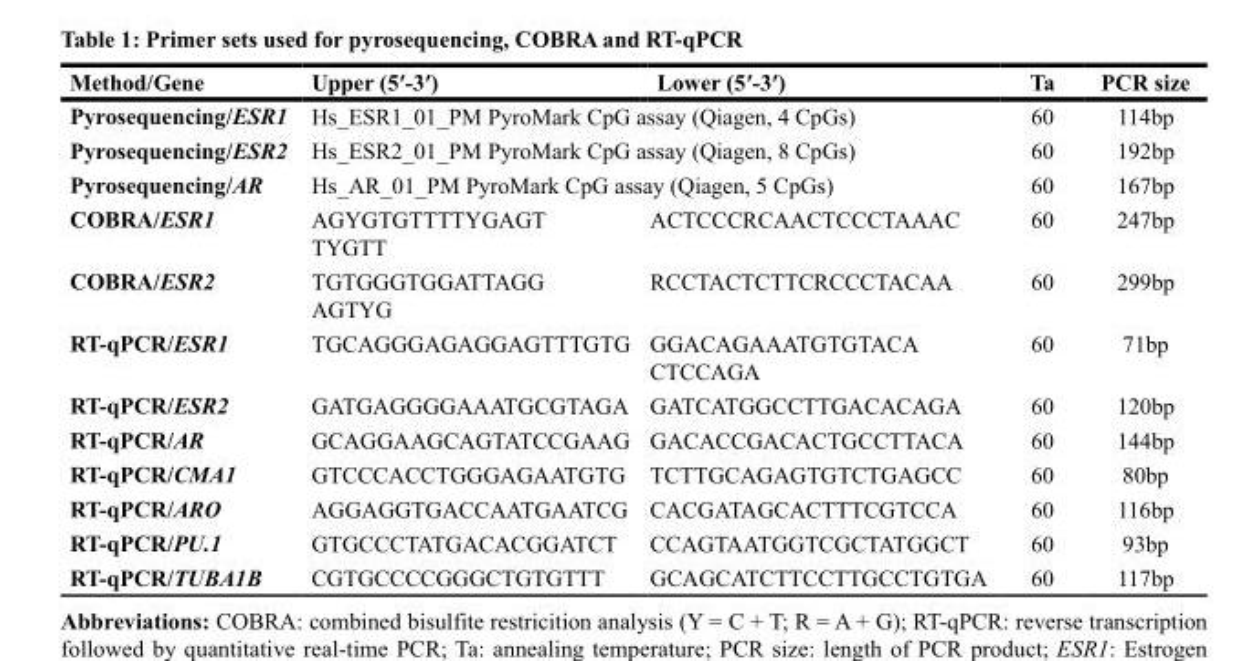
<table><thead><tr><td>Method/Gene</td><td>Upper (5′-3′)</td><td>Lower (5′-3′)</td><td>Ta</td><td>PCR size</td></tr></thead><tbody><tr><td>Pyrosequencing/ESR1</td><td colspan="2">Hs_ESR1_01_PM PyroMark CpG assay (Qiagen, 4 CpGs)</td><td>60</td><td>114bp</td></tr><tr><td>Pyrosequencing/ESR2</td><td colspan="2">Hs_ESR2_01_PM PyroMark CpG assay (Qiagen, 8 CpGs)</td><td>60</td><td>192bp</td></tr><tr><td>Pyrosequencing/AR</td><td colspan="2">Hs_AR_01_PM PyroMark CpG assay (Qiagen, 5 CpGs)</td><td>60</td><td>167bp</td></tr><tr><td>COBRA/ESR1</td><td>AGYGTGTTTTYGAGT TYGTT</td><td>ACTCCCRCAACTCCCTAAAC</td><td>60</td><td>247bp</td></tr><tr><td>COBRA/ESR2</td><td>TGTGGGTGGATTAGG AGTYG</td><td>RCCTACTCTTCRCCCTACAA</td><td>60</td><td>299bp</td></tr><tr><td>RT-qPCR/ESR1</td><td>TGCAGGGAGAGGAGTTTGTG</td><td>GGACAGAAATGTGTACA CTCCAGA</td><td>60</td><td>71bp</td></tr><tr><td>RT-qPCR/ESR2</td><td>GATGAGGGGAAATGCGTAGA</td><td>GATCATGGCCTTGACACAGA</td><td>60</td><td>120bp</td></tr><tr><td>RT-qPCR/AR</td><td>GCAGGAAGCAGTATCCGAAG</td><td>GACACCGACACTGCCTTACA</td><td>60</td><td>144bp</td></tr><tr><td>RT-qPCR/CMA1</td><td>GTCCCACCTGGGAGAATGTG</td><td>TCTTGCAGAGTGTCTGAGCC</td><td>60</td><td>80bp</td></tr><tr><td>RT-qPCR/ARO</td><td>AGGAGGTGACCAATGAATCG</td><td>CACGATAGCACTTTCGTCCA</td><td>60</td><td>116bp</td></tr><tr><td>RT-qPCR/PU.1</td><td>GTGCCCTATGACACGGATCT</td><td>CCAGTAATGGTCGCTATGGCT</td><td>60</td><td>93bp</td></tr><tr><td>RT-qPCR/TUBA1B</td><td>CGTGCCCCGGGCTGTGTTT</td><td>GCAGCATCTTCCTTGCCTGTGA</td><td>60</td><td>117bp</td></tr></tbody></table>